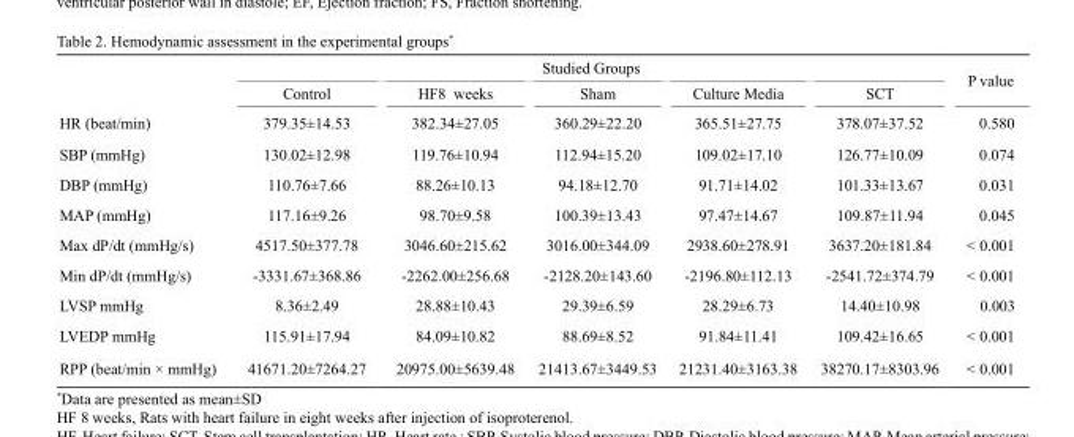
<table><thead><tr><td rowspan="2"></td><td colspan="5">Studied Groups</td><td rowspan="2">P value</td></tr><tr><td>Control</td><td>HF8 weeks</td><td>Sham</td><td>Culture Media</td><td>SCT</td></tr></thead><tbody><tr><td>HR (beat/min)</td><td>379.35±14.53</td><td>382.34±27.05</td><td>360.29±22.20</td><td>365.51±27.75</td><td>378.07±37.52</td><td>0.580</td></tr><tr><td>SBP (mmHg)</td><td>130.02±12.98</td><td>119.76±10.94</td><td>112.94±15.20</td><td>109.02±17.10</td><td>126.77±10.09</td><td>0.074</td></tr><tr><td>DBP (mmHg)</td><td>110.76±7.66</td><td>88.26±10.13</td><td>94.18±12.70</td><td>91.71±14.02</td><td>101.33±13.67</td><td>0.031</td></tr><tr><td>MAP (mmHg)</td><td>117.16±9.26</td><td>98.70±9.58</td><td>100.39±13.43</td><td>97.47±14.67</td><td>109.87±11.94</td><td>0.045</td></tr><tr><td>Max dP/dt (mmHg/s)</td><td>4517.50±377.78</td><td>3046.60±215.62</td><td>3016.00±344.09</td><td>2938.60±278.91</td><td>3637.20±181.84</td><td>&lt; 0.001</td></tr><tr><td>Min dP/dt (mmHg/s)</td><td>-3331.67±368.86</td><td>-2262.00±256.68</td><td>-2128.20±143.60</td><td>-2196.80±112.13</td><td>-2541.72±374.79</td><td>&lt; 0.001</td></tr><tr><td>LVSP mmHg</td><td>8.36±2.49</td><td>28.88±10.43</td><td>29.39±6.59</td><td>28.29±6.73</td><td>14.40±10.98</td><td>0.003</td></tr><tr><td>LVEDP mmHg</td><td>115.91±17.94</td><td>84.09±10.82</td><td>88.69±8.52</td><td>91.84±11.41</td><td>109.42±16.65</td><td>&lt; 0.001</td></tr><tr><td>RPP (beat/min × mmHg)</td><td>41671.20±7264.27</td><td>20975.00±5639.48</td><td>21413.67±3449.53</td><td>21231.40±3163.38</td><td>38270.17±8303.96</td><td>&lt; 0.001</td></tr></tbody></table>